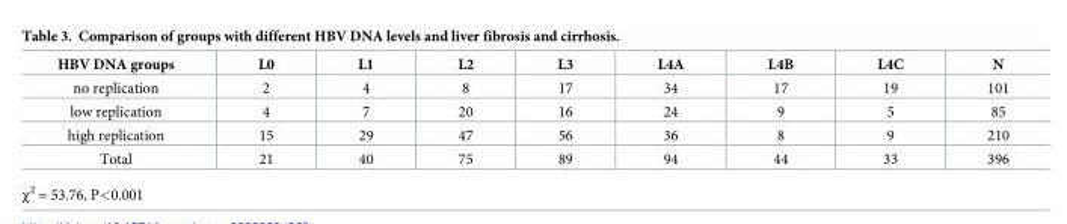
<table><thead><tr><td>HBV DNA groups</td><td>L0</td><td>L1</td><td>L2</td><td>L3</td><td>L4A</td><td>L4B</td><td>L4C</td><td>N</td></tr></thead><tbody><tr><td>no replication</td><td>2</td><td>4</td><td>8</td><td>17</td><td>34</td><td>17</td><td>19</td><td>101</td></tr><tr><td>low replication</td><td>4</td><td>7</td><td>20</td><td>16</td><td>24</td><td>9</td><td>5</td><td>85</td></tr><tr><td>high replication</td><td>15</td><td>29</td><td>47</td><td>56</td><td>36</td><td>8</td><td>9</td><td>210</td></tr><tr><td>Total</td><td>21</td><td>40</td><td>75</td><td>89</td><td>94</td><td>44</td><td>33</td><td>396</td></tr></tbody></table>